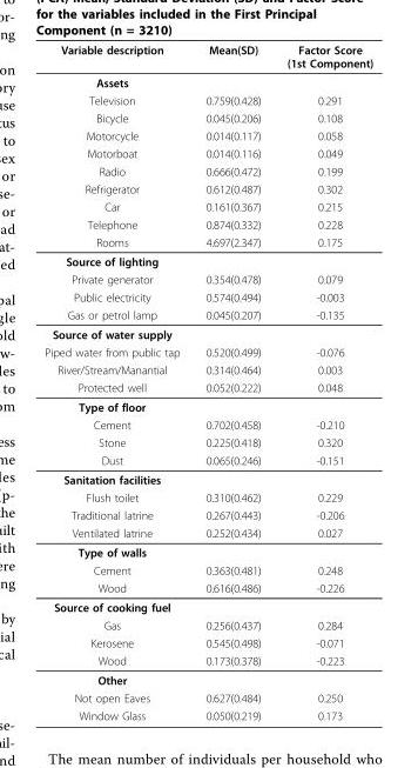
<table><thead><tr><td>Variable description</td><td>Mean(SD)</td><td>Factor Score (1st Component)</td></tr></thead><tbody><tr><td colspan="3">Assets</td></tr><tr><td>Television</td><td>0.759(0.428)</td><td>0.291</td></tr><tr><td>Bicycle</td><td>0.045(0.206)</td><td>0.108</td></tr><tr><td>Motorcycle</td><td>0.014(0.117)</td><td>0.058</td></tr><tr><td>Motorboat</td><td>0.014(0.116)</td><td>0.049</td></tr><tr><td>Radio</td><td>0.666(0.472)</td><td>0.199</td></tr><tr><td>Refrigerator</td><td>0.612(0.487)</td><td>0.302</td></tr><tr><td>Car</td><td>0.161(0.367)</td><td>0.215</td></tr><tr><td>Telephone</td><td>0.874(0.332)</td><td>0.228</td></tr><tr><td>Rooms</td><td>4.697(2.347)</td><td>0.175</td></tr><tr><td colspan="3">Source of lighting</td></tr><tr><td>Private generator</td><td>0.354(0.478)</td><td>0.079</td></tr><tr><td>Public electricity</td><td>0.574(0.494)</td><td>-0.003</td></tr><tr><td>Gas or petrol lamp</td><td>0.045(0.207)</td><td>-0.135</td></tr><tr><td colspan="3">Source of water supply</td></tr><tr><td>Piped water from public tap</td><td>0.520(0.499)</td><td>-0.076</td></tr><tr><td>River/Stream/Manantial</td><td>0.314(0.464)</td><td>0.003</td></tr><tr><td>Protected well</td><td>0.052(0.222)</td><td>0.048</td></tr><tr><td colspan="3">Type of floor</td></tr><tr><td>Cement</td><td>0.702(0.458)</td><td>-0.210</td></tr><tr><td>Stone</td><td>0.225(0.418)</td><td>0.320</td></tr><tr><td>Dust</td><td>0.065(0.246)</td><td>-0.151</td></tr><tr><td colspan="3">Sanitation facilities</td></tr><tr><td>Flush toilet</td><td>0.310(0.462)</td><td>0.229</td></tr><tr><td>Traditional latrine</td><td>0.267(0.443)</td><td>-0.206</td></tr><tr><td>Ventilated latrine</td><td>0.252(0.434)</td><td>0.027</td></tr><tr><td colspan="3">Type of walls</td></tr><tr><td>Cement</td><td>0.363(0.481)</td><td>0.248</td></tr><tr><td>Wood</td><td>0.616(0.486)</td><td>-0.226</td></tr><tr><td colspan="3">Source of cooking fuel</td></tr><tr><td>Gas</td><td>0.256(0.437)</td><td>0.284</td></tr><tr><td>Kerosene</td><td>0.545(0.498)</td><td>-0.071</td></tr><tr><td>Wood</td><td>0.173(0.378)</td><td>-0.223</td></tr><tr><td colspan="3">Other</td></tr><tr><td>Not open Eaves</td><td>0.627(0.484)</td><td>0.250</td></tr><tr><td>Window Glass</td><td>0.050(0.219)</td><td>0.173</td></tr></tbody></table>